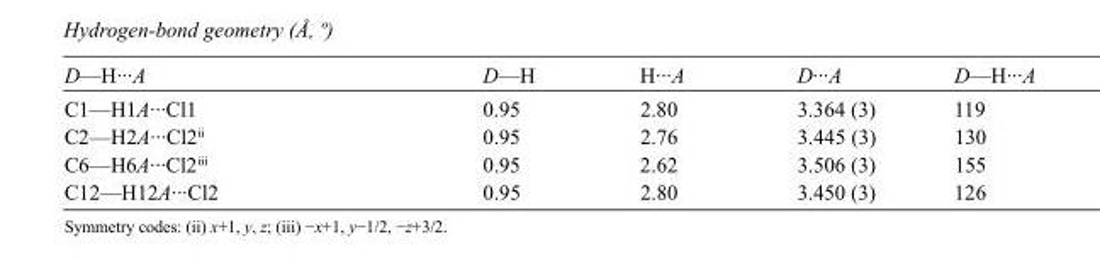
<table><tbody><tr><td>D—H···A</td><td>D—H</td><td>H···A</td><td>D···A</td><td>D—H···A</td></tr><tr><td>C1—H1A···Cl1</td><td>0.95</td><td>2.80</td><td>3.364 (3)</td><td>119</td></tr><tr><td>C2—H2A···Cl2<sup>ii</sup></td><td>0.95</td><td>2.76</td><td>3.445 (3)</td><td>130</td></tr><tr><td>C6—H6A···Cl2<sup>iii</sup></td><td>0.95</td><td>2.62</td><td>3.506 (3)</td><td>155</td></tr><tr><td>C12—H12A···Cl2</td><td>0.95</td><td>2.80</td><td>3.450 (3)</td><td>126</td></tr></tbody></table>